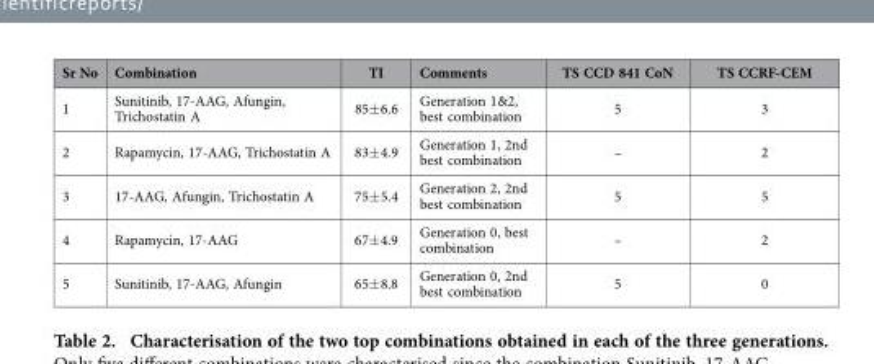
<table><thead><tr><td>Sr No</td><td>Combination</td><td>TI</td><td>Comments</td><td>TS CCD 841 CoN</td><td>TS CCRF-CEM</td></tr></thead><tbody><tr><td>1</td><td>Sunitinib, 17-AAG, Afungin, Trichostatin A</td><td>85± 6.6</td><td>Generation 1&amp;2, best combination</td><td>5</td><td>3</td></tr><tr><td>2</td><td>Rapamycin, 17-AAG, Trichostatin A</td><td>83± 4.9</td><td>Generation 1, 2nd best combination</td><td>–</td><td>2</td></tr><tr><td>3</td><td>17-AAG, Afungin, Trichostatin A</td><td>75± 5.4</td><td>Generation 2, 2nd best combination</td><td>5</td><td>5</td></tr><tr><td>4</td><td>Rapamycin, 17-AAG</td><td>67± 4.9</td><td>Generation 0, best combination</td><td>–</td><td>2</td></tr><tr><td>5</td><td>Sunitinib, 17-AAG, Afungin</td><td>65± 8.8</td><td>Generation 0, 2nd best combination</td><td>5</td><td>0</td></tr></tbody></table>